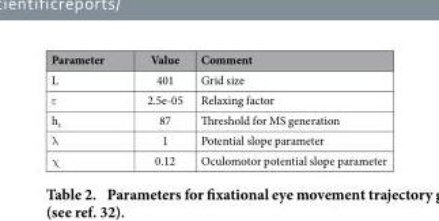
<table><thead><tr><td>Parameter</td><td>Value</td><td>Comment</td></tr></thead><tbody><tr><td>L</td><td>401</td><td>Grid size</td></tr><tr><td>ε</td><td>2.5e-05</td><td>Relaxing factor</td></tr><tr><td>h<sub>c</sub></td><td>87</td><td>Threshold for MS generation</td></tr><tr><td>λ</td><td>1</td><td>Potential slope parameter</td></tr><tr><td>χ</td><td>0.12</td><td>Oculomotor potential slope parameter</td></tr></tbody></table>